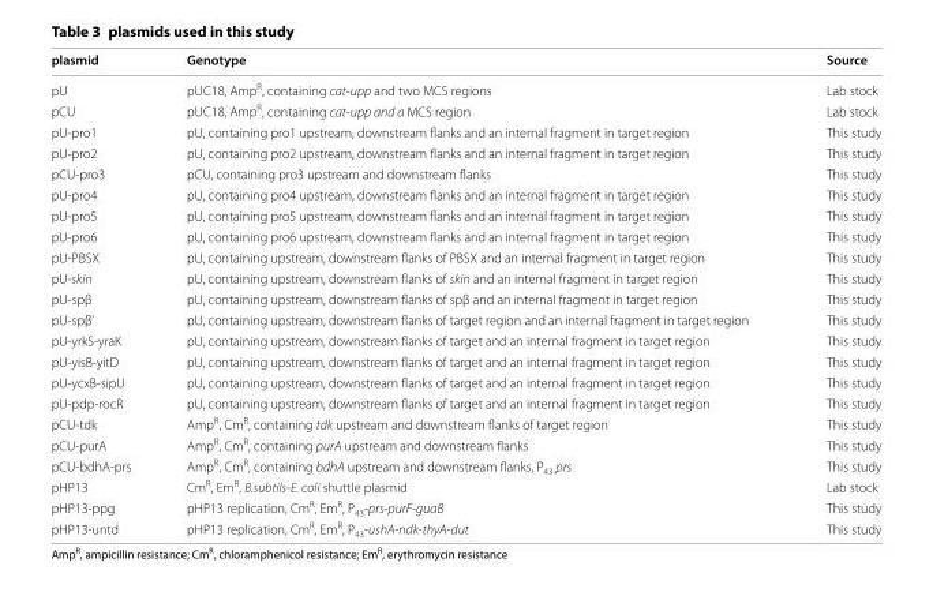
<table><thead><tr><td>plasmid</td><td>Genotype</td><td>Source</td></tr></thead><tbody><tr><td>pU</td><td>pUC18, Amp<sup>R</sup>, containing cat-upp and two MCS regions</td><td>Lab stock</td></tr><tr><td>pCU</td><td>pUC18, Amp<sup>R</sup>, containing cat-upp and a MCS region</td><td>Lab stock</td></tr><tr><td>pU-pro1</td><td>pU, containing pro1 upstream, downstream flanks and an internal fragment in target region</td><td>This study</td></tr><tr><td>pU-pro2</td><td>pU, containing pro2 upstream, downstream flanks and an internal fragment in target region</td><td>This study</td></tr><tr><td>pCU-pro3</td><td>pCU, containing pro3 upstream and downstream flanks</td><td>This study</td></tr><tr><td>pU-pro4</td><td>pU, containing pro4 upstream, downstream flanks and an internal fragment in target region</td><td>This study</td></tr><tr><td>pU-pro5</td><td>pU, containing pro5 upstream, downstream flanks and an internal fragment in target region</td><td>This study</td></tr><tr><td>pU-pro6</td><td>pU, containing pro6 upstream, downstream flanks and an internal fragment in target region</td><td>This study</td></tr><tr><td>pU-PBSX</td><td>pU, containing upstream, downstream flanks of PBSX and an internal fragment in target region</td><td>This study</td></tr><tr><td>pU-skin</td><td>pU, containing upstream, downstream flanks of skin and an internal fragment in target region</td><td>This study</td></tr><tr><td>pU-spβ</td><td>pU, containing upstream, downstream flanks of spβ and an internal fragment in target region</td><td>This study</td></tr><tr><td>pU-spβ’</td><td>pU, containing upstream, downstream flanks of target region and an internal fragment in target region</td><td>This study</td></tr><tr><td>pU-yrkS-yraK</td><td>pU, containing upstream, downstream flanks of target and an internal fragment in target region</td><td>This study</td></tr><tr><td>pU-yisB-yitD</td><td>pU, containing upstream, downstream flanks of target and an internal fragment in target region</td><td>This study</td></tr><tr><td>pU-ycxB-sipU</td><td>pU, containing upstream, downstream flanks of target and an internal fragment in target region</td><td>This study</td></tr><tr><td>pU-pdp-rocR</td><td>pU, containing upstream, downstream flanks of target and an internal fragment in target region</td><td>This study</td></tr><tr><td>pCU-tdk</td><td>Amp<sup>R</sup>, Cm<sup>R</sup>, containing tdk upstream and downstream flanks of target region</td><td>This study</td></tr><tr><td>pCU-purA</td><td>Amp<sup>R</sup>, Cm<sup>R</sup>, containing purA upstream and downstream flanks</td><td>This study</td></tr><tr><td>pCU-bdhA-prs</td><td>Amp<sup>R</sup>, Cm<sup>R</sup>, containing bdhA upstream and downstream flanks, P<sub>43-</sub>prs</td><td>This study</td></tr><tr><td>pHP13</td><td>Cm<sup>R</sup>, Em<sup>R</sup>, B.subtils-E. coli shuttle plasmid</td><td>Lab stock</td></tr><tr><td>pHP13-ppg</td><td>pHP13 replication, Cm<sup>R</sup>, Em<sup>R</sup>, P<sub>43</sub>-prs-purF-guaB</td><td>This study</td></tr><tr><td>pHP13-untd</td><td>pHP13 replication, Cm<sup>R</sup>, Em<sup>R</sup>, P<sub>43</sub>-ushA-ndk-thyA-dut</td><td>This study</td></tr></tbody></table>